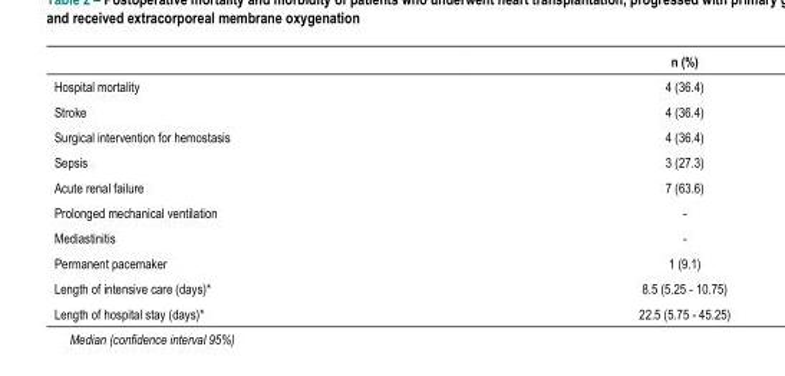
<table><thead><tr><td></td><td>n (%)</td></tr></thead><tbody><tr><td>Hospital mortality</td><td>4 (36.4)</td></tr><tr><td>Stroke</td><td>4 (36.4)</td></tr><tr><td>Surgical intervention for hemostasis</td><td>4 (36.4)</td></tr><tr><td>Sepsis</td><td>3 (27.3)</td></tr><tr><td>Acute renal failure</td><td>7 (63.6)</td></tr><tr><td>Prolonged mechanical ventilation</td><td>-</td></tr><tr><td>Mediastinitis</td><td>-</td></tr><tr><td>Permanent pacemaker</td><td>1 (9.1)</td></tr><tr><td>Length of intensive care (days)*</td><td>8.5 (5.25 - 10.75)</td></tr><tr><td>Length of hospital stay (days)*</td><td>22.5 (5.75 - 45.25)</td></tr></tbody></table>